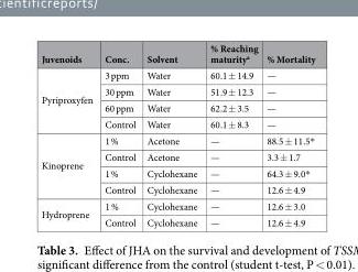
<table><thead><tr><td>Juvenoids</td><td>Conc.</td><td>Solvent</td><td>% Reaching maturity<sup>a</sup></td><td>% Mortality</td></tr></thead><tbody><tr><td rowspan="4">Pyriproxyfen</td><td>3 ppm</td><td>Water</td><td>60.1 ± 14.9</td><td>—</td></tr><tr><td>30 ppm</td><td>Water</td><td>51.9 ± 12.3</td><td>—</td></tr><tr><td>60 ppm</td><td>Water</td><td>62.2 ± 3.5</td><td>—</td></tr><tr><td>Control</td><td>Water</td><td>60.1 ± 8.3</td><td>—</td></tr><tr><td rowspan="4">Kinoprene</td><td>1 %</td><td>Acetone</td><td>—</td><td>88.5 ± 11.5*</td></tr><tr><td>Control</td><td>Acetone</td><td>—</td><td>3.3 ± 1.7</td></tr><tr><td>1 %</td><td>Cyclohexane</td><td>—</td><td>64.3 ± 9.0*</td></tr><tr><td>Control</td><td>Cyclohexane</td><td>—</td><td>12.6 ± 4.9</td></tr><tr><td rowspan="2">Hydroprene</td><td>1 %</td><td>Cyclohexane</td><td>—</td><td>12.6 ± 3.0</td></tr><tr><td>Control</td><td>Cyclohexane</td><td>—</td><td>12.6 ± 4.9</td></tr></tbody></table>